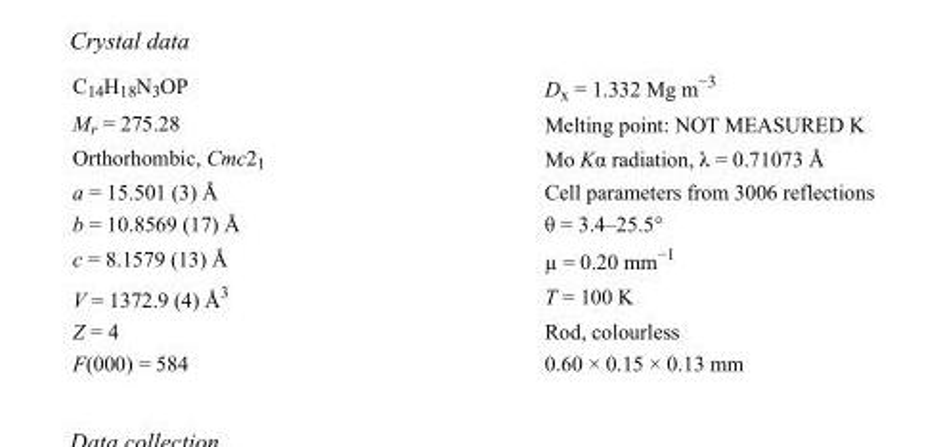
<table><tbody><tr><td>C<sub>14</sub>H<sub>18</sub>N<sub>3</sub>OP</td><td>D<sub>x</sub> = 1.332 Mg m<sup>−3</sup></td></tr><tr><td>M<sub>r</sub> = 275.28</td><td>Melting point: NOT MEASURED K</td></tr><tr><td>Orthorhombic, Cmc2<sub>1</sub></td><td>Mo Kα radiation, λ = 0.71073 Å</td></tr><tr><td>a = 15.501 (3) Å</td><td>Cell parameters from 3006 reflections</td></tr><tr><td>b = 10.8569 (17) Å</td><td>θ = 3.4–25.5°</td></tr><tr><td>c = 8.1579 (13) Å</td><td>µ = 0.20 mm<sup>−1</sup></td></tr><tr><td>V = 1372.9 (4) Å<sup>3</sup></td><td>T = 100 K</td></tr><tr><td>Z = 4</td><td>Rod, colourless</td></tr><tr><td>F(000) = 584</td><td>0.60 × 0.15 × 0.13 mm</td></tr></tbody></table>